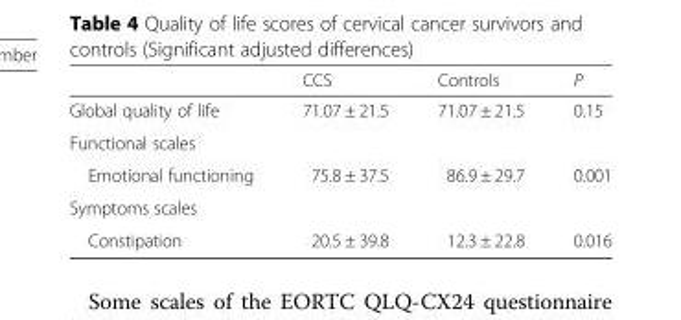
<table><thead><tr><td></td><td>CCS</td><td>Controls</td><td>P</td></tr></thead><tbody><tr><td>Global quality of life</td><td>71.07 ± 21.5</td><td>71.07 ± 21.5</td><td>0.15</td></tr><tr><td colspan="4">Functional scales</td></tr><tr><td>Emotional functioning</td><td>75.8 ± 37.5</td><td>86.9 ± 29.7</td><td>0.001</td></tr><tr><td colspan="4">Symptoms scales</td></tr><tr><td>Constipation</td><td>20.5 ± 39.8</td><td>12.3 ± 22.8</td><td>0.016</td></tr></tbody></table>